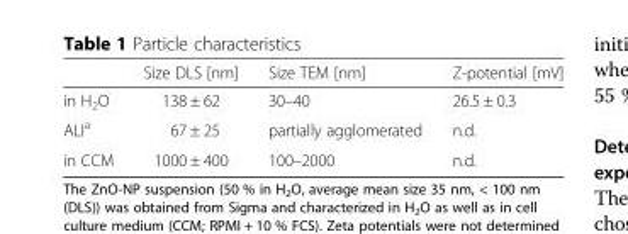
<table><thead><tr><td></td><td>Size DLS [nm]</td><td>Size TEM [nm]</td><td>Z-potential [mV]</td></tr></thead><tbody><tr><td>in H<sub>2</sub>O</td><td>138 ± 62</td><td>30–40</td><td>26.5 ± 0.3</td></tr><tr><td>ALI<sup>a</sup></td><td>67 ± 25</td><td>partially agglomerated</td><td>n.d.</td></tr><tr><td>in CCM</td><td>1000 ± 400</td><td>100–2000</td><td>n.d.</td></tr></tbody></table>